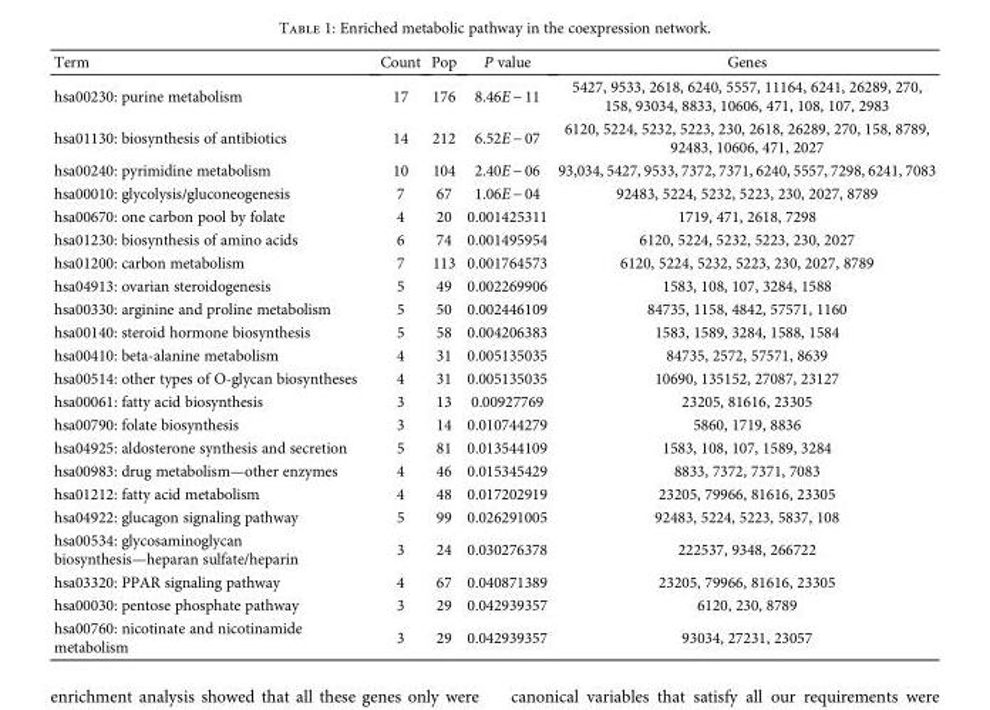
<table><thead><tr><td>Term</td><td>Count</td><td>Pop</td><td>P value</td><td>Genes</td></tr></thead><tbody><tr><td>hsa00230: purine metabolism</td><td>17</td><td>176</td><td>8.46E − 11</td><td>5427, 9533, 2618, 6240, 5557, 11164, 6241, 26289, 270, 158, 93034, 8833, 10606, 471, 108, 107, 2983</td></tr><tr><td>hsa01130: biosynthesis of antibiotics</td><td>14</td><td>212</td><td>6.52E − 07</td><td>6120, 5224, 5232, 5223, 230, 2618, 26289, 270, 158, 8789, 92483, 10606, 471, 2027</td></tr><tr><td>hsa00240: pyrimidine metabolism</td><td>10</td><td>104</td><td>2.40E − 06</td><td>93,034, 5427, 9533, 7372, 7371, 6240, 5557, 7298, 6241, 7083</td></tr><tr><td>hsa00010: glycolysis/gluconeogenesis</td><td>7</td><td>67</td><td>1.06E − 04</td><td>92483, 5224, 5232, 5223, 230, 2027, 8789</td></tr><tr><td>hsa00670: one carbon pool by folate</td><td>4</td><td>20</td><td>0.001425311</td><td>1719, 471, 2618, 7298</td></tr><tr><td>hsa01230: biosynthesis of amino acids</td><td>6</td><td>74</td><td>0.001495954</td><td>6120, 5224, 5232, 5223, 230, 2027</td></tr><tr><td>hsa01200: carbon metabolism</td><td>7</td><td>113</td><td>0.001764573</td><td>6120, 5224, 5232, 5223, 230, 2027, 8789</td></tr><tr><td>hsa04913: ovarian steroidogenesis</td><td>5</td><td>49</td><td>0.002269906</td><td>1583, 108, 107, 3284, 1588</td></tr><tr><td>hsa00330: arginine and proline metabolism</td><td>5</td><td>50</td><td>0.002446109</td><td>84735, 1158, 4842, 57571, 1160</td></tr><tr><td>hsa00140: steroid hormone biosynthesis</td><td>5</td><td>58</td><td>0.004206383</td><td>1583, 1589, 3284, 1588, 1584</td></tr><tr><td>hsa00410: beta-alanine metabolism</td><td>4</td><td>31</td><td>0.005135035</td><td>84735, 2572, 57571, 8639</td></tr><tr><td>hsa00514: other types of O-glycan biosyntheses</td><td>4</td><td>31</td><td>0.005135035</td><td>10690, 135152, 27087, 23127</td></tr><tr><td>hsa00061: fatty acid biosynthesis</td><td>3</td><td>13</td><td>0.00927769</td><td>23205, 81616, 23305</td></tr><tr><td>hsa00790: folate biosynthesis</td><td>3</td><td>14</td><td>0.010744279</td><td>5860, 1719, 8836</td></tr><tr><td>hsa04925: aldosterone synthesis and secretion</td><td>5</td><td>81</td><td>0.013544109</td><td>1583, 108, 107, 1589, 3284</td></tr><tr><td>hsa00983: drug metabolism—other enzymes</td><td>4</td><td>46</td><td>0.015345429</td><td>8833, 7372, 7371, 7083</td></tr><tr><td>hsa01212: fatty acid metabolism</td><td>4</td><td>48</td><td>0.017202919</td><td>23205, 79966, 81616, 23305</td></tr><tr><td>hsa04922: glucagon signaling pathway</td><td>5</td><td>99</td><td>0.026291005</td><td>92483, 5224, 5223, 5837, 108</td></tr><tr><td>hsa00534: glycosaminoglycan biosynthesis—heparan sulfate/heparin</td><td>3</td><td>24</td><td>0.030276378</td><td>222537, 9348, 266722</td></tr><tr><td>hsa03320: PPAR signaling pathway</td><td>4</td><td>67</td><td>0.040871389</td><td>23205, 79966, 81616, 23305</td></tr><tr><td>hsa00030: pentose phosphate pathway</td><td>3</td><td>29</td><td>0.042939357</td><td>6120, 230, 8789</td></tr><tr><td>hsa00760: nicotinate and nicotinamide metabolism</td><td>3</td><td>29</td><td>0.042939357</td><td>93034, 27231, 23057</td></tr></tbody></table>